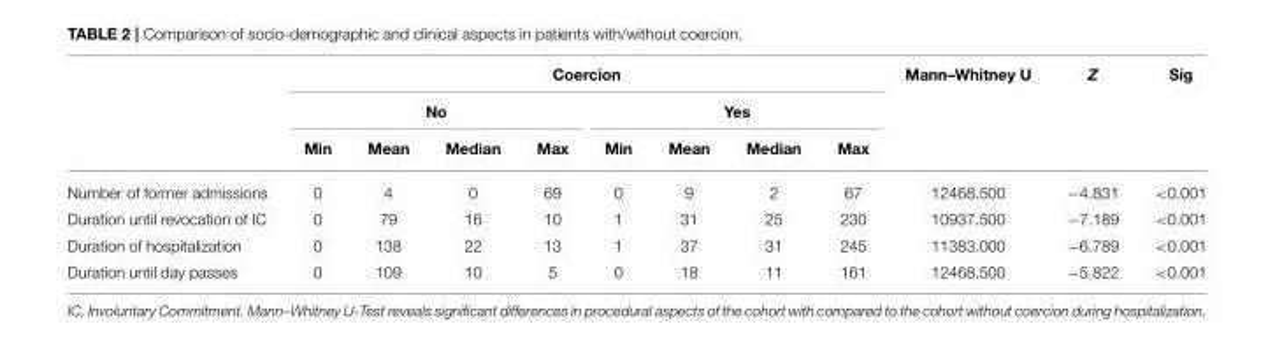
<table><thead><tr><td rowspan="3"></td><td colspan="8">Coercion</td><td rowspan="3">Mann–Whitney U</td><td rowspan="3">Z</td><td rowspan="3">Sig</td></tr><tr><td colspan="4">No</td><td colspan="4">Yes</td></tr><tr><td>Min</td><td>Mean</td><td>Median</td><td>Max</td><td>Min</td><td>Mean</td><td>Median</td><td>Max</td></tr></thead><tbody><tr><td>Number of former admissions</td><td>0</td><td>4</td><td>0</td><td>69</td><td>0</td><td>9</td><td>2</td><td>67</td><td>12468.500</td><td>−4.831</td><td>&lt;0.001</td></tr><tr><td>Duration until revocation of IC</td><td>0</td><td>79</td><td>16</td><td>10</td><td>1</td><td>31</td><td>25</td><td>230</td><td>10937.500</td><td>−7.189</td><td>&lt;0.001</td></tr><tr><td>Duration of hospitalization</td><td>0</td><td>138</td><td>22</td><td>13</td><td>1</td><td>37</td><td>31</td><td>245</td><td>11383.000</td><td>−6.789</td><td>&lt;0.001</td></tr><tr><td>Duration until day passes</td><td>0</td><td>109</td><td>10</td><td>5</td><td>0</td><td>18</td><td>11</td><td>161</td><td>12468.500</td><td>−5.822</td><td>&lt;0.001</td></tr></tbody></table>